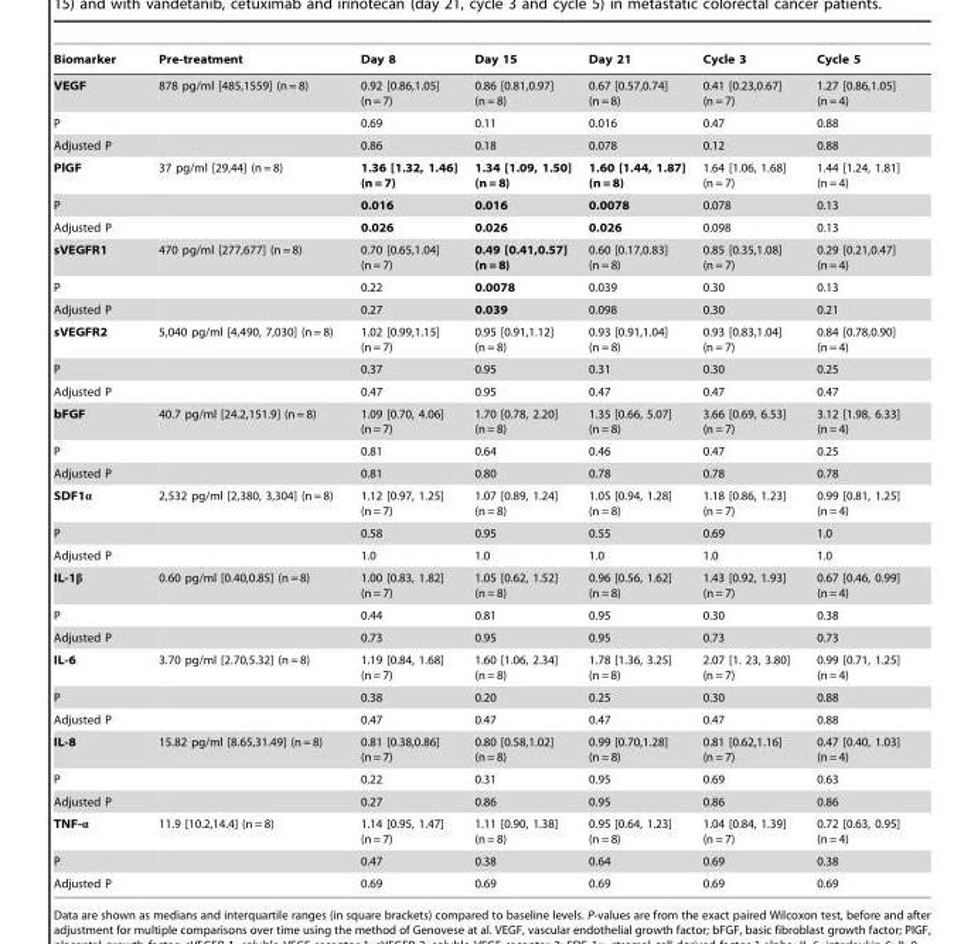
<table><thead><tr><td>Biomarker</td><td>Pre-treatment</td><td>Day 8</td><td>Day 15</td><td>Day 21</td><td>Cycle 3</td><td>Cycle 5</td></tr></thead><tbody><tr><td>VEGF</td><td>878 pg/ml [485,1559] (n = 8)</td><td>0.92 [0.86,1.05] (n = 7)</td><td>0.86 [0.81,0.97] (n = 8)</td><td>0.67 [0.57,0.74] (n = 8)</td><td>0.41 [0.23,0.67] (n = 7)</td><td>1.27 [0.86,1.05] (n = 4)</td></tr><tr><td>P</td><td></td><td>0.69</td><td>0.11</td><td>0.016</td><td>0.47</td><td>0.88</td></tr><tr><td>Adjusted P</td><td></td><td>0.86</td><td>0.18</td><td>0.078</td><td>0.12</td><td>0.88</td></tr><tr><td>PlGF</td><td>37 pg/ml [29,44] (n = 8)</td><td>1.36 [1.32, 1.46] (n = 7)</td><td>1.34 [1.09, 1.50] (n = 8)</td><td>1.60 [1.44, 1.87] (n = 8)</td><td>1.64 [1.06, 1.68] (n = 7)</td><td>1.44 [1.24, 1.81] (n = 4)</td></tr><tr><td>P</td><td></td><td>0.016</td><td>0.016</td><td>0.0078</td><td>0.078</td><td>0.13</td></tr><tr><td>Adjusted P</td><td></td><td>0.026</td><td>0.026</td><td>0.026</td><td>0.098</td><td>0.13</td></tr><tr><td>sVEGFR1</td><td>470 pg/ml [277,677] (n = 8)</td><td>0.70 [0.65,1.04] (n = 7)</td><td>0.49 [0.41,0.57] (n = 8)</td><td>0.60 [0.17,0.83] (n = 8)</td><td>0.85 [0.35,1.08] (n = 7)</td><td>0.29 [0.21,0.47] (n = 4)</td></tr><tr><td>P</td><td></td><td>0.22</td><td>0.0078</td><td>0.039</td><td>0.30</td><td>0.13</td></tr><tr><td>Adjusted P</td><td></td><td>0.27</td><td>0.039</td><td>0.098</td><td>0.30</td><td>0.21</td></tr><tr><td>sVEGFR2</td><td>5,040 pg/ml [4,490, 7,030] (n = 8)</td><td>1.02 [0.99,1.15] (n = 7)</td><td>0.95 [0.91,1.12] (n = 8)</td><td>0.93 [0.91,1.04] (n = 8)</td><td>0.93 [0.83,1.04] (n = 7)</td><td>0.84 [0.78,0.90] (n = 4)</td></tr><tr><td>P</td><td></td><td>0.37</td><td>0.95</td><td>0.31</td><td>0.30</td><td>0.25</td></tr><tr><td>Adjusted P</td><td></td><td>0.47</td><td>0.95</td><td>0.47</td><td>0.47</td><td>0.47</td></tr><tr><td>bFGF</td><td>40.7 pg/ml [24.2,151.9] (n = 8)</td><td>1.09 [0.70, 4.06] (n = 7)</td><td>1.70 [0.78, 2.20] (n = 8)</td><td>1.35 [0.66, 5.07] (n = 8)</td><td>3.66 [0.69, 6.53] (n = 7)</td><td>3.12 [1.98, 6.33] (n = 4)</td></tr><tr><td>P</td><td></td><td>0.81</td><td>0.64</td><td>0.46</td><td>0.47</td><td>0.25</td></tr><tr><td>Adjusted P</td><td></td><td>0.81</td><td>0.80</td><td>0.78</td><td>0.78</td><td>0.78</td></tr><tr><td>SDF1α</td><td>2,532 pg/ml [2,380, 3,304] (n = 8)</td><td>1.12 [0.97, 1.25] (n = 7)</td><td>1.07 [0.89, 1.24] (n = 8)</td><td>1.05 [0.94, 1.28] (n = 8)</td><td>1.18 [0.86, 1.23] (n = 7)</td><td>0.99 [0.81, 1.25] (n = 4)</td></tr><tr><td>P</td><td></td><td>0.58</td><td>0.95</td><td>0.55</td><td>0.69</td><td>1.0</td></tr><tr><td>Adjusted P</td><td></td><td>1.0</td><td>1.0</td><td>1.0</td><td>1.0</td><td>1.0</td></tr><tr><td>IL-1β</td><td>0.60 pg/ml [0.40,0.85] (n = 8)</td><td>1.00 [0.83, 1.82] (n = 7)</td><td>1.05 [0.62, 1.52] (n = 8)</td><td>0.96 [0.56, 1.62] (n = 8)</td><td>1.43 [0.92, 1.93] (n = 7)</td><td>0.67 [0.46, 0.99] (n = 4)</td></tr><tr><td>P</td><td></td><td>0.44</td><td>0.81</td><td>0.95</td><td>0.30</td><td>0.38</td></tr><tr><td>Adjusted P</td><td></td><td>0.73</td><td>0.95</td><td>0.95</td><td>0.73</td><td>0.73</td></tr><tr><td>IL-6</td><td>3.70 pg/ml [2.70,5.32] (n = 8)</td><td>1.19 [0.84, 1.68] (n = 7)</td><td>1.60 [1.06, 2.34] (n = 8)</td><td>1.78 [1.36, 3.25] (n = 8)</td><td>2.07 [1. 23, 3.80] (n = 7)</td><td>0.99 [0.71, 1.25] (n = 4)</td></tr><tr><td>P</td><td></td><td>0.38</td><td>0.20</td><td>0.25</td><td>0.30</td><td>0.88</td></tr><tr><td>Adjusted P</td><td></td><td>0.47</td><td>0.47</td><td>0.47</td><td>0.47</td><td>0.88</td></tr><tr><td>IL-8</td><td>15.82 pg/ml [8.65,31.49] (n = 8)</td><td>0.81 [0.38,0.86] (n = 7)</td><td>0.80 [0.58,1.02] (n = 8)</td><td>0.99 [0.70,1.28] (n = 8)</td><td>0.81 [0.62,1.16] (n = 7)</td><td>0.47 [0.40, 1.03] (n = 4)</td></tr><tr><td>P</td><td></td><td>0.22</td><td>0.31</td><td>0.95</td><td>0.69</td><td>0.63</td></tr><tr><td>Adjusted P</td><td></td><td>0.27</td><td>0.86</td><td>0.95</td><td>0.86</td><td>0.86</td></tr><tr><td>TNF-α</td><td>11.9 [10.2,14.4] (n = 8)</td><td>1.14 [0.95, 1.47] (n = 7)</td><td>1.11 [0.90, 1.38] (n = 8)</td><td>0.95 [0.64, 1.23] (n = 8)</td><td>1.04 [0.84, 1.39] (n = 7)</td><td>0.72 [0.63, 0.95] (n = 4)</td></tr><tr><td>P</td><td></td><td>0.47</td><td>0.38</td><td>0.64</td><td>0.69</td><td>0.38</td></tr><tr><td>Adjusted P</td><td></td><td>0.69</td><td>0.69</td><td>0.69</td><td>0.69</td><td>0.69</td></tr></tbody></table>